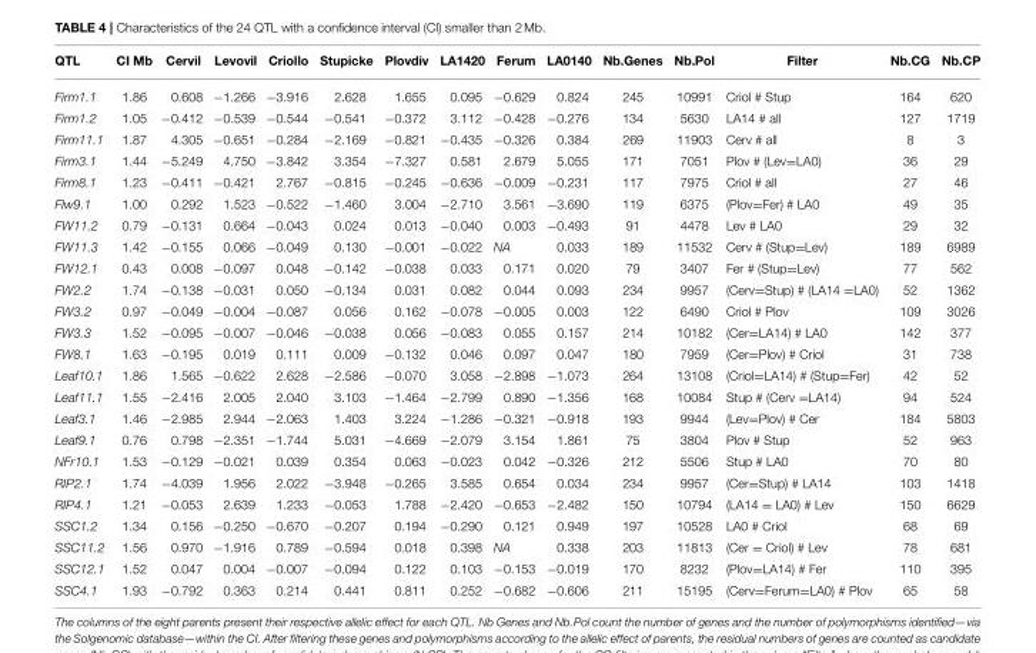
<table><thead><tr><td>QTL</td><td>CI Mb</td><td>Cervil</td><td>Levovil</td><td>Criollo</td><td>Stupicke</td><td>Plovdiv</td><td>LA1420</td><td>Ferum</td><td>LA0140</td><td>Nb.Genes</td><td>Nb.Pol</td><td>Filter</td><td>Nb.CG</td><td>Nb.CP</td></tr></thead><tbody><tr><td>Firm1.1</td><td>1.86</td><td>0.608</td><td>−1.266</td><td>−3.916</td><td>2.628</td><td>1.655</td><td>0.095</td><td>−0.629</td><td>0.824</td><td>245</td><td>10991</td><td>Criol # Stup</td><td>164</td><td>620</td></tr><tr><td>Firm1.2</td><td>1.05</td><td>−0.412</td><td>−0.539</td><td>−0.544</td><td>−0.541</td><td>−0.372</td><td>3.112</td><td>−0.428</td><td>−0.276</td><td>134</td><td>5630</td><td>LA14 # all</td><td>127</td><td>1719</td></tr><tr><td>Firm11.1</td><td>1.87</td><td>4.305</td><td>−0.651</td><td>−0.284</td><td>−2.169</td><td>−0.821</td><td>−0.435</td><td>−0.326</td><td>0.384</td><td>269</td><td>11903</td><td>Cerv # all</td><td>8</td><td>3</td></tr><tr><td>Firm3.1</td><td>1.44</td><td>−5.249</td><td>4.750</td><td>−3.842</td><td>3.354</td><td>−7.327</td><td>0.581</td><td>2.679</td><td>5.055</td><td>171</td><td>7051</td><td>Plov # (Lev=LA0)</td><td>36</td><td>29</td></tr><tr><td>Firm8.1</td><td>1.23</td><td>−0.411</td><td>−0.421</td><td>2.767</td><td>−0.815</td><td>−0.245</td><td>−0.636</td><td>−0.009</td><td>−0.231</td><td>117</td><td>7975</td><td>Criol # all</td><td>27</td><td>46</td></tr><tr><td>Flw9.1</td><td>1.00</td><td>0.292</td><td>1.523</td><td>−0.522</td><td>−1.460</td><td>3.004</td><td>−2.710</td><td>3.561</td><td>−3.690</td><td>119</td><td>6375</td><td>(Plov=Fer) # LA0</td><td>49</td><td>35</td></tr><tr><td>FW11.2</td><td>0.79</td><td>−0.131</td><td>0.664</td><td>−0.043</td><td>0.024</td><td>0.013</td><td>−0.040</td><td>0.003</td><td>−0.493</td><td>91</td><td>4478</td><td>Lev # LA0</td><td>29</td><td>32</td></tr><tr><td>FW11.3</td><td>1.42</td><td>−0.155</td><td>0.066</td><td>−0.049</td><td>0.130</td><td>−0.001</td><td>−0.022</td><td>NA</td><td>0.033</td><td>189</td><td>11532</td><td>Cerv # (Stup=Lev)</td><td>189</td><td>6989</td></tr><tr><td>FW12.1</td><td>0.43</td><td>0.008</td><td>−0.097</td><td>0.048</td><td>−0.142</td><td>−0.038</td><td>0.033</td><td>0.171</td><td>0.020</td><td>79</td><td>3407</td><td>Fer # (Stup=Lev)</td><td>77</td><td>562</td></tr><tr><td>FW2.2</td><td>1.74</td><td>−0.138</td><td>−0.031</td><td>0.050</td><td>−0.134</td><td>0.031</td><td>0.082</td><td>0.044</td><td>0.093</td><td>234</td><td>9957</td><td>(Cerv=Stup) # (LA14 =LA0)</td><td>52</td><td>1362</td></tr><tr><td>FW3.2</td><td>0.97</td><td>−0.049</td><td>−0.004</td><td>−0.087</td><td>0.056</td><td>0.162</td><td>−0.078</td><td>−0.005</td><td>0.003</td><td>122</td><td>6490</td><td>Criol # Plov</td><td>109</td><td>3026</td></tr><tr><td>FW3.3</td><td>1.52</td><td>−0.095</td><td>−0.007</td><td>−0.046</td><td>−0.038</td><td>0.056</td><td>−0.083</td><td>0.055</td><td>0.157</td><td>214</td><td>10182</td><td>(Cer=LA14) # LA0</td><td>142</td><td>377</td></tr><tr><td>FW8.1</td><td>1.63</td><td>−0.195</td><td>0.019</td><td>0.111</td><td>0.009</td><td>−0.132</td><td>0.046</td><td>0.097</td><td>0.047</td><td>180</td><td>7959</td><td>(Cer=Plov) # Criol</td><td>31</td><td>738</td></tr><tr><td>Leaf10.1</td><td>1.86</td><td>1.565</td><td>−0.622</td><td>2.628</td><td>−2.586</td><td>−0.070</td><td>3.058</td><td>−2.898</td><td>−1.073</td><td>264</td><td>13108</td><td>(Criol=LA14) # (Stup=Fer)</td><td>42</td><td>52</td></tr><tr><td>Leaf11.1</td><td>1.55</td><td>−2.416</td><td>2.005</td><td>2.040</td><td>3.103</td><td>−1.464</td><td>−2.799</td><td>0.890</td><td>−1.356</td><td>168</td><td>10084</td><td>Stup # (Cerv =LA14)</td><td>94</td><td>524</td></tr><tr><td>Leaf3.1</td><td>1.46</td><td>−2.985</td><td>2.944</td><td>−2.063</td><td>1.403</td><td>3.224</td><td>−1.286</td><td>−0.321</td><td>−0.918</td><td>193</td><td>9944</td><td>(Lev=Plov) # Cer</td><td>184</td><td>5803</td></tr><tr><td>Leaf9.1</td><td>0.76</td><td>0.798</td><td>−2.351</td><td>−1.744</td><td>5.031</td><td>−4.669</td><td>−2.079</td><td>3.154</td><td>1.861</td><td>75</td><td>3804</td><td>Plov # Stup</td><td>52</td><td>963</td></tr><tr><td>NFr10.1</td><td>1.53</td><td>−0.129</td><td>−0.021</td><td>0.039</td><td>0.354</td><td>0.063</td><td>−0.023</td><td>0.042</td><td>−0.326</td><td>212</td><td>5506</td><td>Stup # LA0</td><td>70</td><td>80</td></tr><tr><td>RIP2.1</td><td>1.74</td><td>−4.039</td><td>1.956</td><td>2.022</td><td>−3.948</td><td>−0.265</td><td>3.585</td><td>0.654</td><td>0.034</td><td>234</td><td>9957</td><td>(Cer=Stup) # LA14</td><td>103</td><td>1418</td></tr><tr><td>RIP4.1</td><td>1.21</td><td>−0.053</td><td>2.639</td><td>1.233</td><td>−0.053</td><td>1.788</td><td>−2.420</td><td>−0.653</td><td>−2.482</td><td>150</td><td>10794</td><td>(LA14 = LA0) # Lev</td><td>150</td><td>6629</td></tr><tr><td>SSC1.2</td><td>1.34</td><td>0.156</td><td>−0.250</td><td>−0.670</td><td>−0.207</td><td>0.194</td><td>−0.290</td><td>0.121</td><td>0.949</td><td>197</td><td>10528</td><td>LA0 # Criol</td><td>68</td><td>69</td></tr><tr><td>SSC11.2</td><td>1.56</td><td>0.970</td><td>−1.916</td><td>0.789</td><td>−0.594</td><td>0.018</td><td>0.398</td><td>NA</td><td>0.338</td><td>203</td><td>11813</td><td>(Cer = Criol) # Lev</td><td>78</td><td>681</td></tr><tr><td>SSC12.1</td><td>1.52</td><td>0.047</td><td>0.004</td><td>−0.007</td><td>−0.094</td><td>0.122</td><td>0.103</td><td>−0.153</td><td>−0.019</td><td>170</td><td>8232</td><td>(Plov=LA14) # Fer</td><td>110</td><td>395</td></tr><tr><td>SSC4.1</td><td>1.93</td><td>−0.792</td><td>0.363</td><td>0.214</td><td>0.441</td><td>0.811</td><td>0.252</td><td>−0.682</td><td>−0.606</td><td>211</td><td>15195</td><td>(Cerv=Ferum=LA0) # Plov</td><td>65</td><td>58</td></tr></tbody></table>